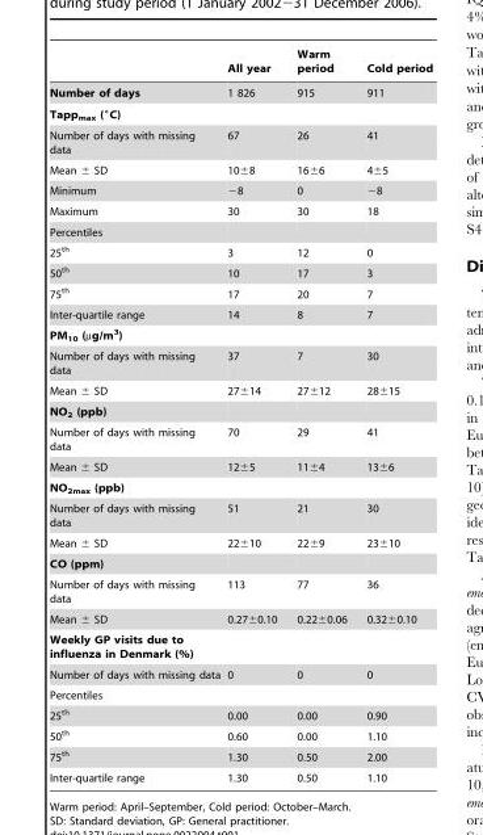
<table><thead><tr><td></td><td>All year</td><td>Warm period</td><td>Cold period</td></tr></thead><tbody><tr><td>Number of days</td><td>1 826</td><td>915</td><td>911</td></tr><tr><td colspan="4">Tapp<sub>max</sub> (°C)</td></tr><tr><td>Number of days with missing data</td><td>67</td><td>26</td><td>41</td></tr><tr><td>Mean ± SD</td><td>10±8</td><td>16±6</td><td>4±5</td></tr><tr><td>Minimum</td><td>−8</td><td>0</td><td>−8</td></tr><tr><td>Maximum</td><td>30</td><td>30</td><td>18</td></tr><tr><td colspan="4">Percentiles</td></tr><tr><td>25<sup>th</sup></td><td>3</td><td>12</td><td>0</td></tr><tr><td>50<sup>th</sup></td><td>10</td><td>17</td><td>3</td></tr><tr><td>75<sup>th</sup></td><td>17</td><td>20</td><td>7</td></tr><tr><td>Inter-quartile range</td><td>14</td><td>8</td><td>7</td></tr><tr><td colspan="4">PM<sub>10</sub> (µg/m<sup>3</sup>)</td></tr><tr><td>Number of days with missing data</td><td>37</td><td>7</td><td>30</td></tr><tr><td>Mean ± SD</td><td>27±14</td><td>27±12</td><td>28±15</td></tr><tr><td colspan="4">NO<sub>2</sub> (ppb)</td></tr><tr><td>Number of days with missing data</td><td>70</td><td>29</td><td>41</td></tr><tr><td>Mean ± SD</td><td>12±5</td><td>11±4</td><td>13±6</td></tr><tr><td colspan="4">NO<sub>2max</sub> (ppb)</td></tr><tr><td>Number of days with missing data</td><td>51</td><td>21</td><td>30</td></tr><tr><td>Mean ± SD</td><td>22±10</td><td>22±9</td><td>23±10</td></tr><tr><td colspan="4">CO (ppm)</td></tr><tr><td>Number of days with missing data</td><td>113</td><td>77</td><td>36</td></tr><tr><td>Mean ± SD</td><td>0.27±0.10</td><td>0.22±0.06</td><td>0.32±0.10</td></tr><tr><td colspan="4">Weekly GP visits due to influenza in Denmark (%)</td></tr><tr><td>Number of days with missing data</td><td>0</td><td>0</td><td>0</td></tr><tr><td colspan="4">Percentiles</td></tr><tr><td>25<sup>th</sup></td><td>0.00</td><td>0.00</td><td>0.90</td></tr><tr><td>50<sup>th</sup></td><td>0.60</td><td>0.00</td><td>1.10</td></tr><tr><td>75<sup>th</sup></td><td>1.30</td><td>0.50</td><td>2.00</td></tr><tr><td>Inter-quartile range</td><td>1.30</td><td>0.50</td><td>1.10</td></tr></tbody></table>